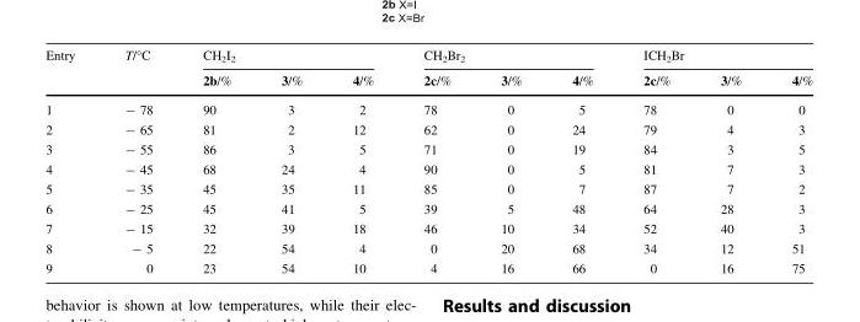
<table><thead><tr><td rowspan="2">Entry</td><td rowspan="2">T/°C</td><td colspan="3">CH<sub>2</sub>I<sub>2</sub></td><td colspan="3">CH<sub>2</sub>Br<sub>2</sub></td><td colspan="3">ICH<sub>2</sub>Br</td></tr><tr><td>2b/%</td><td>3/%</td><td>4/%</td><td>2c/%</td><td>3/%</td><td>4/%</td><td>2c/%</td><td>3/%</td><td>4/%</td></tr></thead><tbody><tr><td>1</td><td>- 78</td><td>90</td><td>3</td><td>2</td><td>78</td><td>0</td><td>5</td><td>78</td><td>0</td><td>0</td></tr><tr><td>2</td><td>- 65</td><td>81</td><td>2</td><td>12</td><td>62</td><td>0</td><td>24</td><td>79</td><td>4</td><td>3</td></tr><tr><td>3</td><td>- 55</td><td>86</td><td>3</td><td>5</td><td>71</td><td>0</td><td>19</td><td>84</td><td>3</td><td>5</td></tr><tr><td>4</td><td>- 45</td><td>68</td><td>24</td><td>4</td><td>90</td><td>0</td><td>5</td><td>81</td><td>7</td><td>3</td></tr><tr><td>5</td><td>- 35</td><td>45</td><td>35</td><td>11</td><td>85</td><td>0</td><td>7</td><td>87</td><td>7</td><td>2</td></tr><tr><td>6</td><td>- 25</td><td>45</td><td>41</td><td>5</td><td>39</td><td>5</td><td>48</td><td>64</td><td>28</td><td>3</td></tr><tr><td>7</td><td>- 15</td><td>32</td><td>39</td><td>18</td><td>46</td><td>10</td><td>34</td><td>52</td><td>40</td><td>3</td></tr><tr><td>8</td><td>- 5</td><td>22</td><td>54</td><td>4</td><td>0</td><td>20</td><td>68</td><td>34</td><td>12</td><td>51</td></tr><tr><td>9</td><td>0</td><td>23</td><td>54</td><td>10</td><td>4</td><td>16</td><td>66</td><td>0</td><td>16</td><td>75</td></tr></tbody></table>